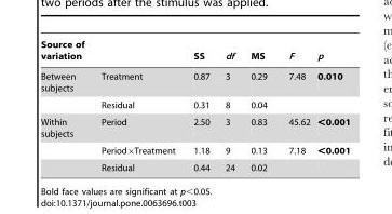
<table><thead><tr><td>Source of variation</td><td></td><td>SS</td><td>df</td><td>MS</td><td>F</td><td>p</td></tr></thead><tbody><tr><td rowspan="2">Between subjects</td><td>Treatment</td><td>0.87</td><td>3</td><td>0.29</td><td>7.48</td><td>0.010</td></tr><tr><td>Residual</td><td>0.31</td><td>8</td><td>0.04</td><td></td><td></td></tr><tr><td rowspan="3">Within subjects</td><td>Period</td><td>2.50</td><td>3</td><td>0.83</td><td>45.62</td><td>&lt;0.001</td></tr><tr><td>Period×Treatment</td><td>1.18</td><td>9</td><td>0.13</td><td>7.18</td><td>&lt;0.001</td></tr><tr><td>Residual</td><td>0.44</td><td>24</td><td>0.02</td><td></td><td></td></tr></tbody></table>